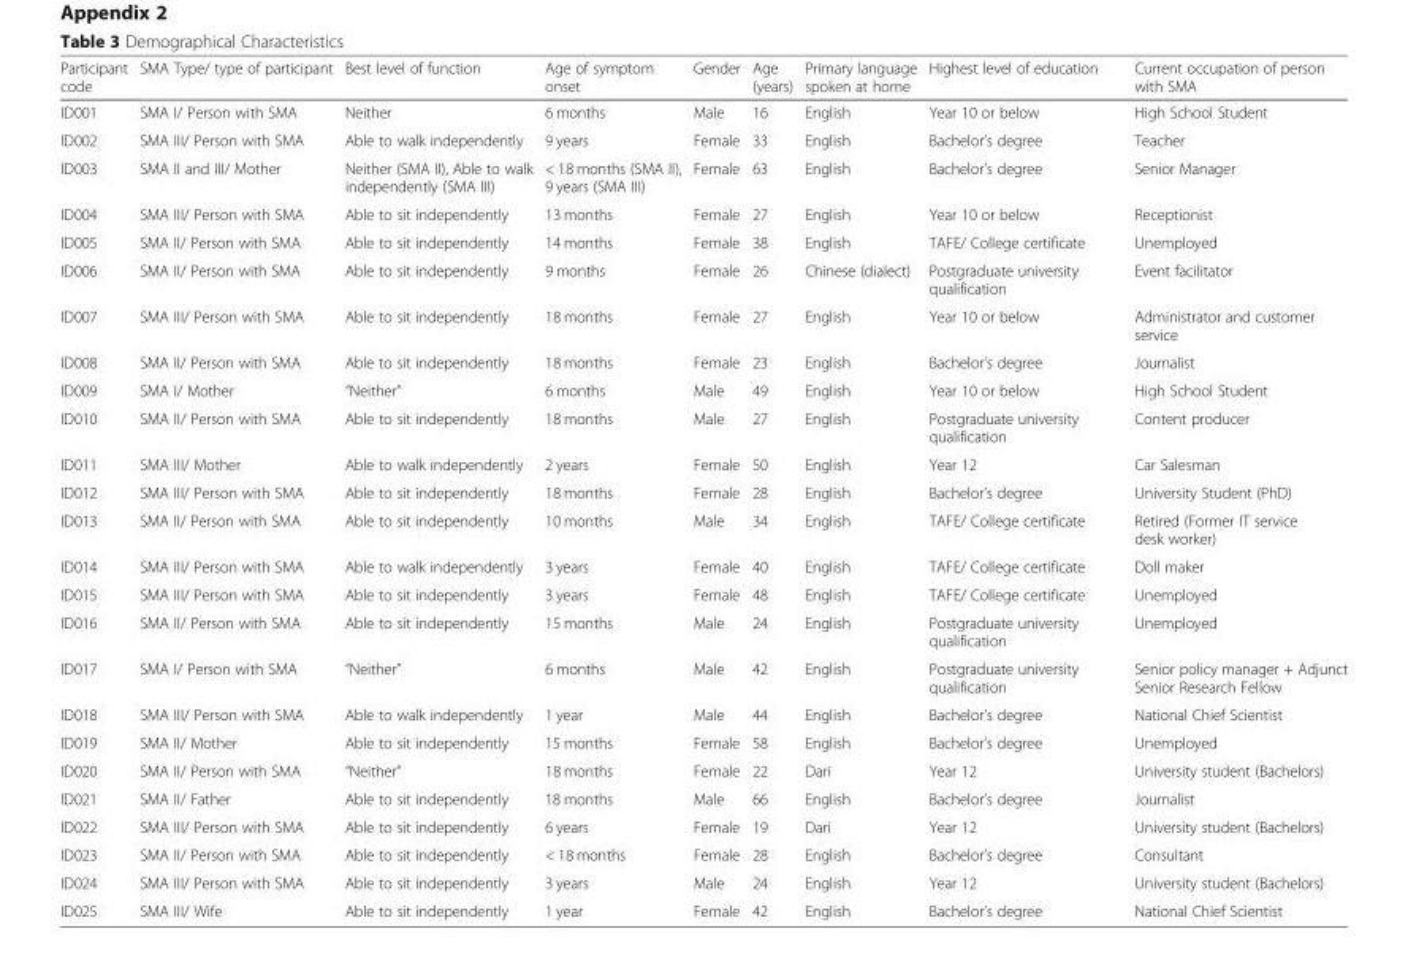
<table><thead><tr><td>Participant code</td><td>SMA Type/ type of participant</td><td>Best level of function</td><td>Age of symptom onset</td><td>Gender</td><td>Age (years)</td><td>Primary language spoken at home</td><td>Highest level of education</td><td>Current occupation of person with SMA</td></tr></thead><tbody><tr><td>ID001</td><td>SMA I/ Person with SMA</td><td>Neither</td><td>6 months</td><td>Male</td><td>16</td><td>English</td><td>Year 10 or below</td><td>High School Student</td></tr><tr><td>ID002</td><td>SMA III/ Person with SMA</td><td>Able to walk independently</td><td>9 years</td><td>Female</td><td>33</td><td>English</td><td>Bachelor’s degree</td><td>Teacher</td></tr><tr><td>ID003</td><td>SMA II and III/ Mother</td><td>Neither (SMA II), Able to walk independently (SMA III)</td><td>&lt; 18 months (SMA II), 9 years (SMA III)</td><td>Female</td><td>63</td><td>English</td><td>Bachelor’s degree</td><td>Senior Manager</td></tr><tr><td>ID004</td><td>SMA III/ Person with SMA</td><td>Able to sit independently</td><td>13 months</td><td>Female</td><td>27</td><td>English</td><td>Year 10 or below</td><td>Receptionist</td></tr><tr><td>ID005</td><td>SMA II/ Person with SMA</td><td>Able to sit independently</td><td>14 months</td><td>Female</td><td>38</td><td>English</td><td>TAFE/ College certificate</td><td>Unemployed</td></tr><tr><td>ID006</td><td>SMA II/ Person with SMA</td><td>Able to sit independently</td><td>9 months</td><td>Female</td><td>26</td><td>Chinese (dialect)</td><td>Postgraduate university qualification</td><td>Event facilitator</td></tr><tr><td>ID007</td><td>SMA III/ Person with SMA</td><td>Able to sit independently</td><td>18 months</td><td>Female</td><td>27</td><td>English</td><td>Year 10 or below</td><td>Administrator and customer service</td></tr><tr><td>ID008</td><td>SMA II/ Person with SMA</td><td>Able to sit independently</td><td>18 months</td><td>Female</td><td>23</td><td>English</td><td>Bachelor’s degree</td><td>Journalist</td></tr><tr><td>ID009</td><td>SMA I/ Mother</td><td>“Neither”</td><td>6 months</td><td>Male</td><td>49</td><td>English</td><td>Year 10 or below</td><td>High School Student</td></tr><tr><td>ID010</td><td>SMA II/ Person with SMA</td><td>Able to sit independently</td><td>18 months</td><td>Male</td><td>27</td><td>English</td><td>Postgraduate university qualification</td><td>Content producer</td></tr><tr><td>ID011</td><td>SMA III/ Mother</td><td>Able to walk independently</td><td>2 years</td><td>Female</td><td>50</td><td>English</td><td>Year 12</td><td>Car Salesman</td></tr><tr><td>ID012</td><td>SMA III/ Person with SMA</td><td>Able to sit independently</td><td>18 months</td><td>Female</td><td>28</td><td>English</td><td>Bachelor’s degree</td><td>University Student (PhD)</td></tr><tr><td>ID013</td><td>SMA II/ Person with SMA</td><td>Able to sit independently</td><td>10 months</td><td>Male</td><td>34</td><td>English</td><td>TAFE/ College certificate</td><td>Retired (Former IT service desk worker)</td></tr><tr><td>ID014</td><td>SMA III/ Person with SMA</td><td>Able to walk independently</td><td>3 years</td><td>Female</td><td>40</td><td>English</td><td>TAFE/ College certificate</td><td>Doll maker</td></tr><tr><td>ID015</td><td>SMA III/ Person with SMA</td><td>Able to sit independently</td><td>3 years</td><td>Female</td><td>48</td><td>English</td><td>TAFE/ College certificate</td><td>Unemployed</td></tr><tr><td>ID016</td><td>SMA II/ Person with SMA</td><td>Able to sit independently</td><td>15 months</td><td>Male</td><td>24</td><td>English</td><td>Postgraduate university qualification</td><td>Unemployed</td></tr><tr><td>ID017</td><td>SMA I/ Person with SMA</td><td>“Neither”</td><td>6 months</td><td>Male</td><td>42</td><td>English</td><td>Postgraduate university qualification</td><td>Senior policy manager + Adjunct Senior Research Fellow</td></tr><tr><td>ID018</td><td>SMA III/ Person with SMA</td><td>Able to walk independently</td><td>1 year</td><td>Male</td><td>44</td><td>English</td><td>Bachelor’s degree</td><td>National Chief Scientist</td></tr><tr><td>ID019</td><td>SMA II/ Mother</td><td>Able to sit independently</td><td>15 months</td><td>Female</td><td>58</td><td>English</td><td>Bachelor’s degree</td><td>Unemployed</td></tr><tr><td>ID020</td><td>SMA II/ Person with SMA</td><td>“Neither”</td><td>18 months</td><td>Female</td><td>22</td><td>Dari</td><td>Year 12</td><td>University student (Bachelors)</td></tr><tr><td>ID021</td><td>SMA II/ Father</td><td>Able to sit independently</td><td>18 months</td><td>Male</td><td>66</td><td>English</td><td>Bachelor’s degree</td><td>Journalist</td></tr><tr><td>ID022</td><td>SMA III/ Person with SMA</td><td>Able to sit independently</td><td>6 years</td><td>Female</td><td>19</td><td>Dari</td><td>Year 12</td><td>University student (Bachelors)</td></tr><tr><td>ID023</td><td>SMA II/ Person with SMA</td><td>Able to sit independently</td><td>&lt; 18 months</td><td>Female</td><td>28</td><td>English</td><td>Bachelor’s degree</td><td>Consultant</td></tr><tr><td>ID024</td><td>SMA III/ Person with SMA</td><td>Able to sit independently</td><td>3 years</td><td>Male</td><td>24</td><td>English</td><td>Year 12</td><td>University student (Bachelors)</td></tr><tr><td>ID025</td><td>SMA III/ Wife</td><td>Able to sit independently</td><td>1 year</td><td>Female</td><td>42</td><td>English</td><td>Bachelor’s degree</td><td>National Chief Scientist</td></tr></tbody></table>